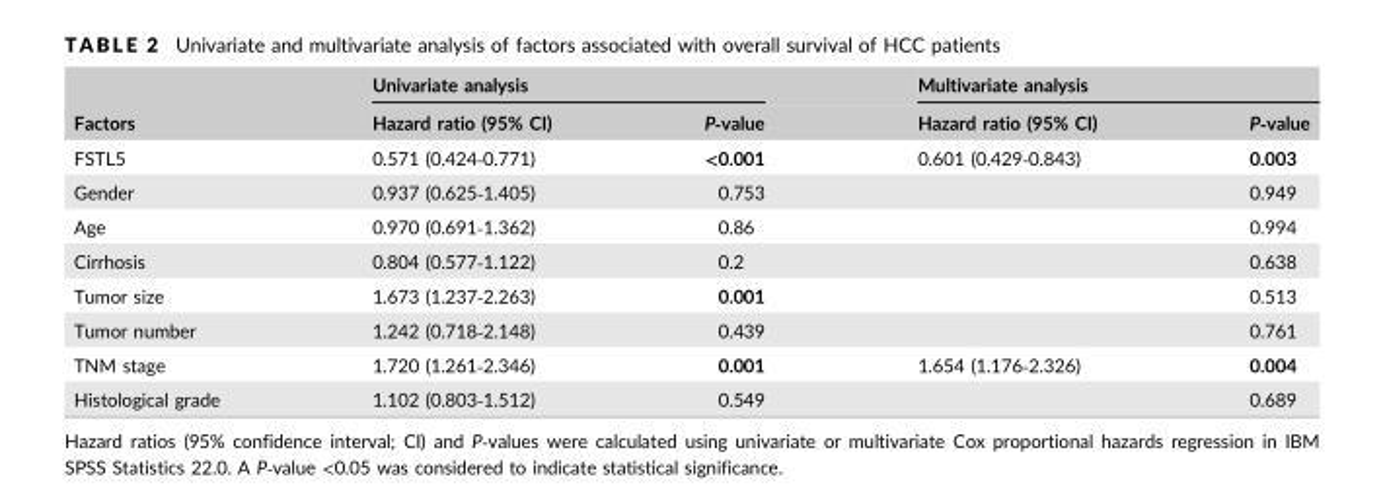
<table><thead><tr><td rowspan="2">Factors</td><td colspan="2">Univariate analysis</td><td colspan="2">Multivariate analysis</td></tr><tr><td>Hazard ratio (95% CI)</td><td>P‐value</td><td>Hazard ratio (95% CI)</td><td>P‐value</td></tr></thead><tbody><tr><td>FSTL5</td><td>0.571 (0.424‐0.771)</td><td>&lt;0.001</td><td>0.601 (0.429‐0.843)</td><td>0.003</td></tr><tr><td>Gender</td><td>0.937 (0.625‐1.405)</td><td>0.753</td><td></td><td>0.949</td></tr><tr><td>Age</td><td>0.970 (0.691‐1.362)</td><td>0.86</td><td></td><td>0.994</td></tr><tr><td>Cirrhosis</td><td>0.804 (0.577‐1.122)</td><td>0.2</td><td></td><td>0.638</td></tr><tr><td>Tumor size</td><td>1.673 (1.237‐2.263)</td><td>0.001</td><td></td><td>0.513</td></tr><tr><td>Tumor number</td><td>1.242 (0.718‐2.148)</td><td>0.439</td><td></td><td>0.761</td></tr><tr><td>TNM stage</td><td>1.720 (1.261‐2.346)</td><td>0.001</td><td>1.654 (1.176‐2.326)</td><td>0.004</td></tr><tr><td>Histological grade</td><td>1.102 (0.803‐1.512)</td><td>0.549</td><td></td><td>0.689</td></tr></tbody></table>